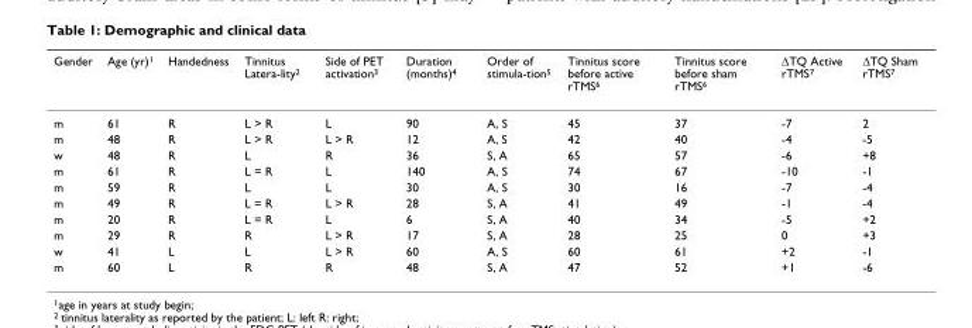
<table><thead><tr><td>Gender</td><td>Age (yr)<sup>1</sup></td><td>Handedness</td><td>Tinnitus Latera-lity<sup>2</sup></td><td>Side of PET activation<sup>3</sup></td><td>Duration (months)<sup>4</sup></td><td>Order of stimula-tion<sup>5</sup></td><td>Tinnitus score before active rTMS<sup>6</sup></td><td>Tinnitus score before sham rTMS<sup>6</sup></td><td>ΔTQ Active rTMS<sup>7</sup></td><td>ΔTQ Sham rTMS<sup>7</sup></td></tr></thead><tbody><tr><td>m</td><td>61</td><td>R</td><td>L &gt; R</td><td>L</td><td>90</td><td>A, S</td><td>45</td><td>37</td><td>-7</td><td>2</td></tr><tr><td>m</td><td>48</td><td>R</td><td>L &gt; R</td><td>L &gt; R</td><td>12</td><td>A, S</td><td>42</td><td>40</td><td>-4</td><td>-5</td></tr><tr><td>w</td><td>48</td><td>R</td><td>L</td><td>R</td><td>36</td><td>S, A</td><td>65</td><td>57</td><td>-6</td><td>+8</td></tr><tr><td>m</td><td>61</td><td>R</td><td>L = R</td><td>L</td><td>140</td><td>A, S</td><td>74</td><td>67</td><td>-10</td><td>-1</td></tr><tr><td>m</td><td>59</td><td>R</td><td>L</td><td>L</td><td>30</td><td>A, S</td><td>30</td><td>16</td><td>-7</td><td>-4</td></tr><tr><td>m</td><td>49</td><td>R</td><td>L = R</td><td>L &gt; R</td><td>28</td><td>S, A</td><td>41</td><td>49</td><td>-1</td><td>-4</td></tr><tr><td>m</td><td>20</td><td>R</td><td>L = R</td><td>L</td><td>6</td><td>S, A</td><td>40</td><td>34</td><td>-5</td><td>+2</td></tr><tr><td>m</td><td>29</td><td>R</td><td>R</td><td>L &gt; R</td><td>17</td><td>S, A</td><td>28</td><td>25</td><td>0</td><td>+3</td></tr><tr><td>w</td><td>41</td><td>L</td><td>L</td><td>L &gt; R</td><td>60</td><td>A, S</td><td>60</td><td>61</td><td>+2</td><td>-1</td></tr><tr><td>m</td><td>60</td><td>L</td><td>R</td><td>R</td><td>48</td><td>S, A</td><td>47</td><td>52</td><td>+1</td><td>-6</td></tr></tbody></table>